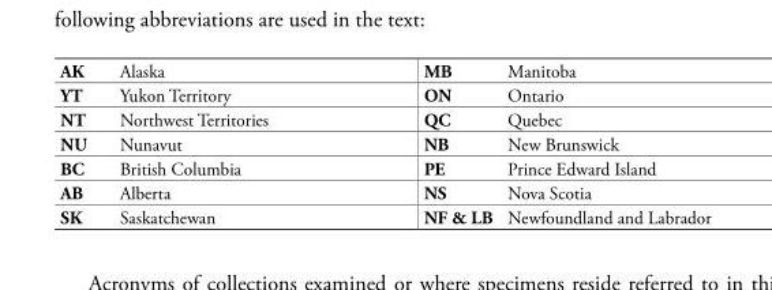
<table><tbody><tr><td>AK</td><td>Alaska</td><td>MB</td><td>Manitoba</td></tr><tr><td>YT</td><td>Yukon Territory</td><td>ON</td><td>Ontario</td></tr><tr><td>NT</td><td>Northwest Territories</td><td>QC</td><td>Quebec</td></tr><tr><td>NU</td><td>Nunavut</td><td>NB</td><td>New Brunswick</td></tr><tr><td>BC</td><td>British Columbia</td><td>PE</td><td>Prince Edward Island</td></tr><tr><td>AB</td><td>Alberta</td><td>NS</td><td>Nova Scotia</td></tr><tr><td>SK</td><td>Saskatchewan</td><td>NF &amp; LB</td><td>Newfoundland and Labrador</td></tr></tbody></table>